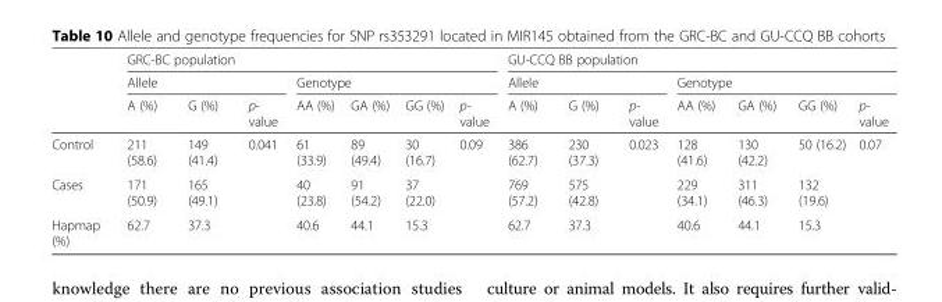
<table><thead><tr><td rowspan="3"></td><td colspan="7">GRC-BC population</td><td colspan="7">GU-CCQ BB population</td></tr><tr><td colspan="3">Allele</td><td colspan="4">Genotype</td><td colspan="3">Allele</td><td colspan="4">Genotype</td></tr><tr><td>A (%)</td><td>G (%)</td><td>p- value</td><td>AA (%)</td><td>GA (%)</td><td>GG (%)</td><td>p- value</td><td>A (%)</td><td>G (%)</td><td>p- value</td><td>AA (%)</td><td>GA (%)</td><td>GG (%)</td><td>p- value</td></tr></thead><tbody><tr><td>Control</td><td>211 (58.6)</td><td>149 (41.4)</td><td rowspan="2">0.041</td><td>61 (33.9)</td><td>89 (49.4)</td><td>30 (16.7)</td><td rowspan="2">0.09</td><td>386 (62.7)</td><td>230 (37.3)</td><td rowspan="2">0.023</td><td>128 (41.6)</td><td>130 (42.2)</td><td>50 (16.2)</td><td rowspan="2">0.07</td></tr><tr><td>Cases</td><td>171 (50.9)</td><td>165 (49.1)</td><td>40 (23.8)</td><td>91 (54.2)</td><td>37 (22.0)</td><td>769 (57.2)</td><td>575 (42.8)</td><td>229 (34.1)</td><td>311 (46.3)</td><td>132 (19.6)</td></tr><tr><td>Hapmap (%)</td><td>62.7</td><td>37.3</td><td></td><td>40.6</td><td>44.1</td><td>15.3</td><td></td><td>62.7</td><td>37.3</td><td></td><td>40.6</td><td>44.1</td><td>15.3</td><td></td></tr></tbody></table>